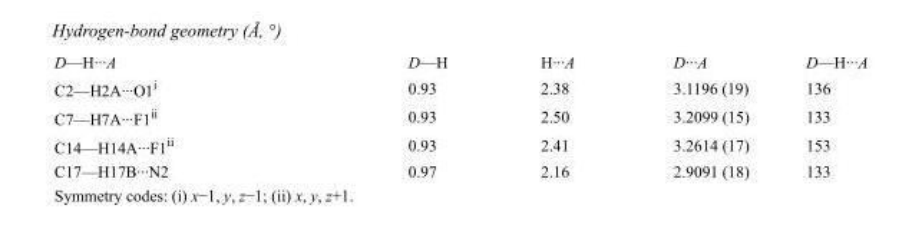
<table><tbody><tr><td>D—H···A</td><td>D—H</td><td>H···A</td><td>D···A</td><td>D—H···A</td></tr><tr><td>C2—H2A···O1<sup>i</sup></td><td>0.93</td><td>2.38</td><td>3.1196 (19)</td><td>136</td></tr><tr><td>C7—H7A···F1<sup>ii</sup></td><td>0.93</td><td>2.50</td><td>3.2099 (15)</td><td>133</td></tr><tr><td>C14—H14A···F1<sup>ii</sup></td><td>0.93</td><td>2.41</td><td>3.2614 (17)</td><td>153</td></tr><tr><td>C17—H17B···N2</td><td>0.97</td><td>2.16</td><td>2.9091 (18)</td><td>133</td></tr></tbody></table>